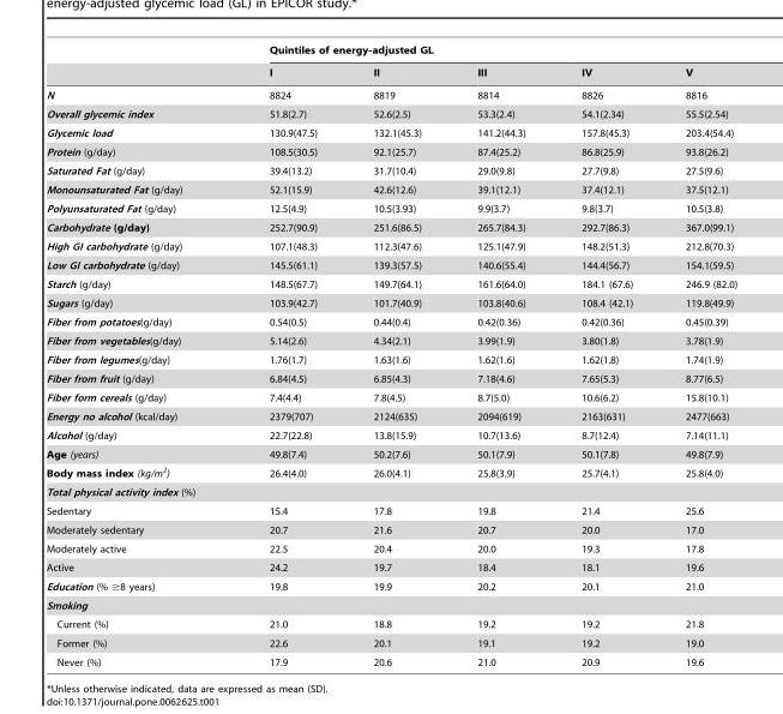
<table><thead><tr><td rowspan="2"></td><td colspan="5">Quintiles of energy-adjusted GL</td></tr><tr><td>I</td><td>II</td><td>III</td><td>IV</td><td>V</td></tr></thead><tbody><tr><td>N</td><td>8824</td><td>8819</td><td>8814</td><td>8826</td><td>8816</td></tr><tr><td>Overall glycemic index</td><td>51.8(2.7)</td><td>52.6(2.5)</td><td>53.3(2.4)</td><td>54.1(2.34)</td><td>55.5(2.54)</td></tr><tr><td>Glycemic load</td><td>130.9(47.5)</td><td>132.1(45.3)</td><td>141.2(44.3)</td><td>157.8(45.3)</td><td>203.4(54.4)</td></tr><tr><td>Protein (g/day)</td><td>108.5(30.5)</td><td>92.1(25.7)</td><td>87.4(25.2)</td><td>86.8(25.9)</td><td>93.8(26.2)</td></tr><tr><td>Saturated Fat (g/day)</td><td>39.4(13.2)</td><td>31.7(10.4)</td><td>29.0(9.8)</td><td>27.7(9.8)</td><td>27.5(9.6)</td></tr><tr><td>Monounsaturated Fat (g/day)</td><td>52.1(15.9)</td><td>42.6(12.6)</td><td>39.1(12.1)</td><td>37.4(12.1)</td><td>37.5(12.1)</td></tr><tr><td>Polyunsaturated Fat (g/day)</td><td>12.5(4.9)</td><td>10.5(3.93)</td><td>9.9(3.7)</td><td>9.8(3.7)</td><td>10.5(3.8)</td></tr><tr><td>Carbohydrate (g/day)</td><td>252.7(90.9)</td><td>251.6(86.5)</td><td>265.7(84.3)</td><td>292.7(86.3)</td><td>367.0(99.1)</td></tr><tr><td>High GI carbohydrate (g/day)</td><td>107.1(48.3)</td><td>112.3(47.6)</td><td>125.1(47.9)</td><td>148.2(51.3)</td><td>212.8(70.3)</td></tr><tr><td>Low GI carbohydrate (g/day)</td><td>145.5(61.1)</td><td>139.3(57.5)</td><td>140.6(55.4)</td><td>144.4(56.7)</td><td>154.1(59.5)</td></tr><tr><td>Starch (g/day)</td><td>148.5(67.7)</td><td>149.7(64.1)</td><td>161.6(64.0)</td><td>184.1 (67.6)</td><td>246.9 (82.0)</td></tr><tr><td>Sugars (g/day)</td><td>103.9(42.7)</td><td>101.7(40.9)</td><td>103.8(40.6)</td><td>108.4 (42.1)</td><td>119.8(49.9)</td></tr><tr><td>Fiber from potatoes(g/day)</td><td>0.54(0.5)</td><td>0.44(0.4)</td><td>0.42(0.36)</td><td>0.42(0.36)</td><td>0.45(0.39)</td></tr><tr><td>Fiber from vegetables(g/day)</td><td>5.14(2.6)</td><td>4.34(2.1)</td><td>3.99(1.9)</td><td>3.80(1.8)</td><td>3.78(1.9)</td></tr><tr><td>Fiber from legumes(g/day)</td><td>1.76(1.7)</td><td>1.63(1.6)</td><td>1.62(1.6)</td><td>1.62(1.8)</td><td>1.74(1.9)</td></tr><tr><td>Fiber from fruit (g/day)</td><td>6.84(4.5)</td><td>6.85(4.3)</td><td>7.18(4.6)</td><td>7.65(5.3)</td><td>8.77(6.5)</td></tr><tr><td>Fiber form cereals (g/day)</td><td>7.4(4.4)</td><td>7.8(4.5)</td><td>8.7(5.0)</td><td>10.6(6.2)</td><td>15.8(10.1)</td></tr><tr><td>Energy no alcohol (kcal/day)</td><td>2379(707)</td><td>2124(635)</td><td>2094(619)</td><td>2163(631)</td><td>2477(663)</td></tr><tr><td>Alcohol (g/day)</td><td>22.7(22.8)</td><td>13.8(15.9)</td><td>10.7(13.6)</td><td>8.7(12.4)</td><td>7.14(11.1)</td></tr><tr><td>Age (years)</td><td>49.8(7.4)</td><td>50.2(7.6)</td><td>50.1(7.9)</td><td>50.1(7.8)</td><td>49.8(7.9)</td></tr><tr><td>Body mass index (kg/m<sup>2</sup>)</td><td>26.4(4.0)</td><td>26.0(4.1)</td><td>25.8(3.9)</td><td>25.7(4.1)</td><td>25.8(4.0)</td></tr><tr><td colspan="6">Total physical activity index (%)</td></tr><tr><td>Sedentary</td><td>15.4</td><td>17.8</td><td>19.8</td><td>21.4</td><td>25.6</td></tr><tr><td>Moderately sedentary</td><td>20.7</td><td>21.6</td><td>20.7</td><td>20.0</td><td>17.0</td></tr><tr><td>Moderately active</td><td>22.5</td><td>20.4</td><td>20.0</td><td>19.3</td><td>17.8</td></tr><tr><td>Active</td><td>24.2</td><td>19.7</td><td>18.4</td><td>18.1</td><td>19.6</td></tr><tr><td>Education (% ≥8 years)</td><td>19.8</td><td>19.9</td><td>20.2</td><td>20.1</td><td>21.0</td></tr><tr><td colspan="6">Smoking</td></tr><tr><td>Current (%)</td><td>21.0</td><td>18.8</td><td>19.2</td><td>19.2</td><td>21.8</td></tr><tr><td>Former (%)</td><td>22.6</td><td>20.1</td><td>19.1</td><td>19.2</td><td>19.0</td></tr><tr><td>Never (%)</td><td>17.9</td><td>20.6</td><td>21.0</td><td>20.9</td><td>19.6</td></tr></tbody></table>